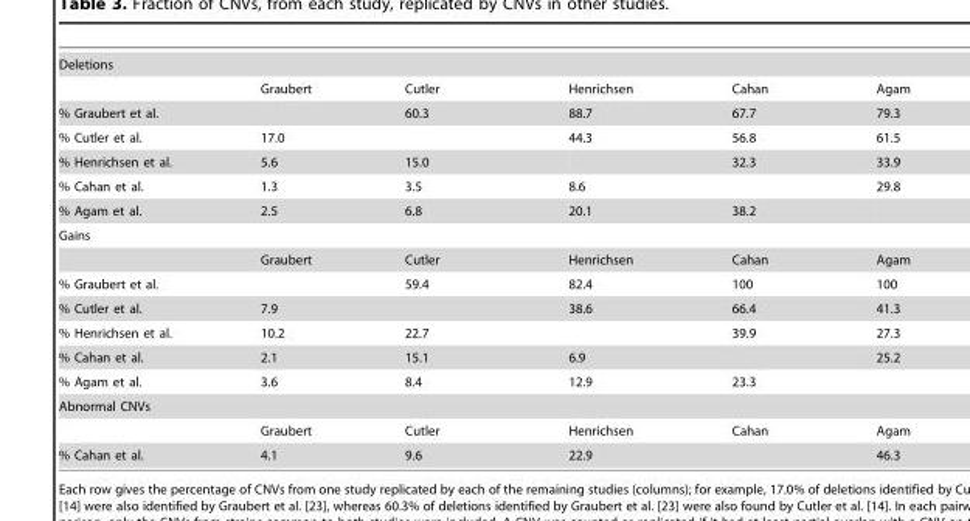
<table><tbody><tr><td colspan="6">Deletions</td></tr><tr><td></td><td>Graubert</td><td>Cutler</td><td>Henrichsen</td><td>Cahan</td><td>Agam</td></tr><tr><td>% Graubert et al.</td><td></td><td>60.3</td><td>88.7</td><td>67.7</td><td>79.3</td></tr><tr><td>% Cutler et al.</td><td>17.0</td><td></td><td>44.3</td><td>56.8</td><td>61.5</td></tr><tr><td>% Henrichsen et al.</td><td>5.6</td><td>15.0</td><td></td><td>32.3</td><td>33.9</td></tr><tr><td>% Cahan et al.</td><td>1.3</td><td>3.5</td><td>8.6</td><td></td><td>29.8</td></tr><tr><td>% Agam et al.</td><td>2.5</td><td>6.8</td><td>20.1</td><td>38.2</td><td></td></tr><tr><td colspan="6">Gains</td></tr><tr><td></td><td>Graubert</td><td>Cutler</td><td>Henrichsen</td><td>Cahan</td><td>Agam</td></tr><tr><td>% Graubert et al.</td><td></td><td>59.4</td><td>82.4</td><td>100</td><td>100</td></tr><tr><td>% Cutler et al.</td><td>7.9</td><td></td><td>38.6</td><td>66.4</td><td>41.3</td></tr><tr><td>% Henrichsen et al.</td><td>10.2</td><td>22.7</td><td></td><td>39.9</td><td>27.3</td></tr><tr><td>% Cahan et al.</td><td>2.1</td><td>15.1</td><td>6.9</td><td></td><td>25.2</td></tr><tr><td>% Agam et al.</td><td>3.6</td><td>8.4</td><td>12.9</td><td>23.3</td><td></td></tr><tr><td colspan="6">Abnormal CNVs</td></tr><tr><td></td><td>Graubert</td><td>Cutler</td><td>Henrichsen</td><td>Cahan</td><td>Agam</td></tr><tr><td>% Cahan et al.</td><td>4.1</td><td>9.6</td><td>22.9</td><td></td><td>46.3</td></tr></tbody></table>